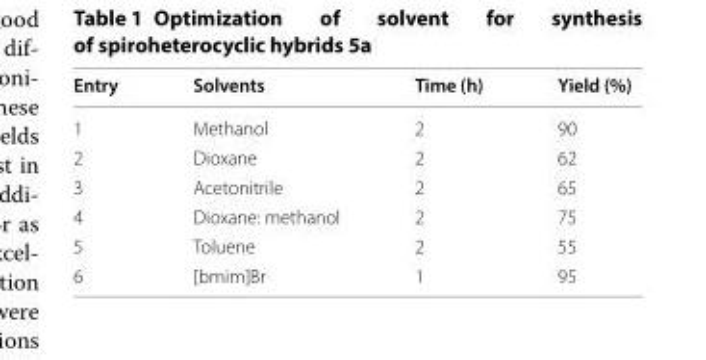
<table><thead><tr><td>Entry</td><td>Solvents</td><td>Time (h)</td><td>Yield (%)</td></tr></thead><tbody><tr><td>1</td><td>Methanol</td><td>2</td><td>90</td></tr><tr><td>2</td><td>Dioxane</td><td>2</td><td>62</td></tr><tr><td>3</td><td>Acetonitrile</td><td>2</td><td>65</td></tr><tr><td>4</td><td>Dioxane: methanol</td><td>2</td><td>75</td></tr><tr><td>5</td><td>Toluene</td><td>2</td><td>55</td></tr><tr><td>6</td><td>[bmim]Br</td><td>1</td><td>95</td></tr></tbody></table>